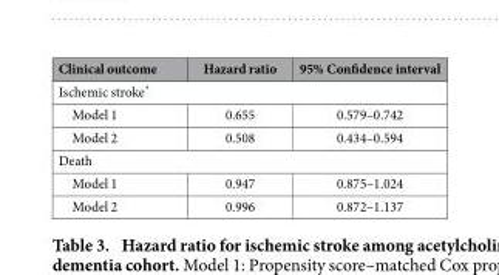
<table><thead><tr><td>Clinical outcome</td><td>Hazard ratio</td><td>95% Confidence interval</td></tr></thead><tbody><tr><td colspan="3">Ischemic stroke*</td></tr><tr><td>Model 1</td><td>0.655</td><td>0.579–0.742</td></tr><tr><td>Model 2</td><td>0.508</td><td>0.434–0.594</td></tr><tr><td colspan="3">Death</td></tr><tr><td>Model 1</td><td>0.947</td><td>0.875–1.024</td></tr><tr><td>Model 2</td><td>0.996</td><td>0.872–1.137</td></tr></tbody></table>